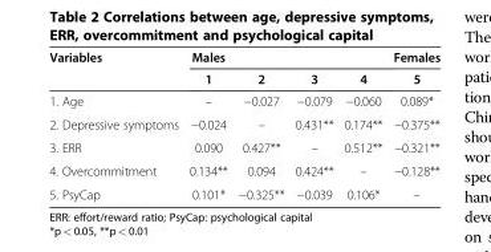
<table><thead><tr><td rowspan="2">Variables</td><td rowspan="2">Males 1</td><td rowspan="2">2</td><td rowspan="2">3</td><td rowspan="2">4</td><td rowspan="2">Females 5</td></tr><tr></tr></thead><tbody><tr><td>1. Age</td><td>–</td><td>−0.027</td><td>−0.079</td><td>−0.060</td><td>0.089*</td></tr><tr><td>2. Depressive symptoms</td><td>−0.024</td><td>–</td><td>0.431**</td><td>0.174**</td><td>−0.375**</td></tr><tr><td>3. ERR</td><td>0.090</td><td>0.427**</td><td>–</td><td>0.512**</td><td>−0.321**</td></tr><tr><td>4. Overcommitment</td><td>0.134**</td><td>0.094</td><td>0.424**</td><td>–</td><td>−0.128**</td></tr><tr><td>5. PsyCap</td><td>0.101*</td><td>−0.325**</td><td>−0.039</td><td>0.106*</td><td>–</td></tr></tbody></table>